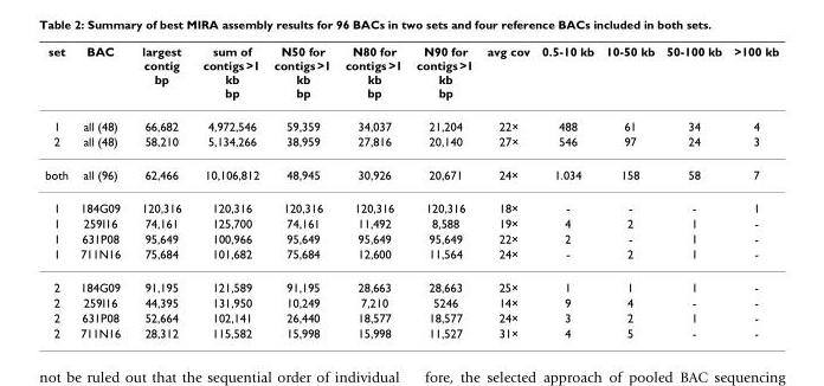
<table><thead><tr><td>set</td><td>BAC</td><td>largest contig bp</td><td>sum of contigs &gt;1 kb bp</td><td>N50 for contigs &gt;1 kb bp</td><td>N80 for contigs &gt;1 kb bp</td><td>N90 for contigs &gt;1 kb bp</td><td>avg cov</td><td>0.5-10 kb</td><td>10-50 kb</td><td>50-100 kb</td><td>&gt;100 kb</td></tr></thead><tbody><tr><td>1</td><td>all (48)</td><td>66,682</td><td>4,972,546</td><td>59,359</td><td>34,037</td><td>21,204</td><td>22×</td><td>488</td><td>61</td><td>34</td><td>4</td></tr><tr><td>2</td><td>all (48)</td><td>58,210</td><td>5,134,266</td><td>38,959</td><td>27,816</td><td>20,140</td><td>27×</td><td>546</td><td>97</td><td>24</td><td>3</td></tr><tr><td>both</td><td>all (96)</td><td>62,466</td><td>10,106,812</td><td>48,945</td><td>30,926</td><td>20,671</td><td>24×</td><td>1.034</td><td>158</td><td>58</td><td>7</td></tr><tr><td>1</td><td>184G09</td><td>120,316</td><td>120,316</td><td>120,316</td><td>120,316</td><td>120,316</td><td>18×</td><td>-</td><td>-</td><td>-</td><td>1</td></tr><tr><td>1</td><td>259I16</td><td>74,161</td><td>125,700</td><td>74,161</td><td>11,492</td><td>8,588</td><td>19×</td><td>4</td><td>2</td><td>1</td><td>-</td></tr><tr><td>1</td><td>631P08</td><td>95,649</td><td>100,966</td><td>95,649</td><td>95,649</td><td>95,649</td><td>22×</td><td>2</td><td>-</td><td>1</td><td>-</td></tr><tr><td>1</td><td>711N16</td><td>75,684</td><td>101,682</td><td>75,684</td><td>12,600</td><td>11,564</td><td>24×</td><td>-</td><td>2</td><td>1</td><td>-</td></tr><tr><td>2</td><td>184G09</td><td>91,195</td><td>121,589</td><td>91,195</td><td>28,663</td><td>28,663</td><td>25×</td><td>1</td><td>1</td><td>1</td><td>-</td></tr><tr><td>2</td><td>259I16</td><td>44,395</td><td>131,950</td><td>10,249</td><td>7,210</td><td>5246</td><td>14×</td><td>9</td><td>4</td><td>-</td><td>-</td></tr><tr><td>2</td><td>631P08</td><td>52,664</td><td>102,141</td><td>26,440</td><td>18,577</td><td>18,577</td><td>24×</td><td>3</td><td>2</td><td>1</td><td>-</td></tr><tr><td>2</td><td>711N16</td><td>28,312</td><td>115,582</td><td>15,998</td><td>15,998</td><td>11,527</td><td>31×</td><td>4</td><td>5</td><td>-</td><td>-</td></tr></tbody></table>